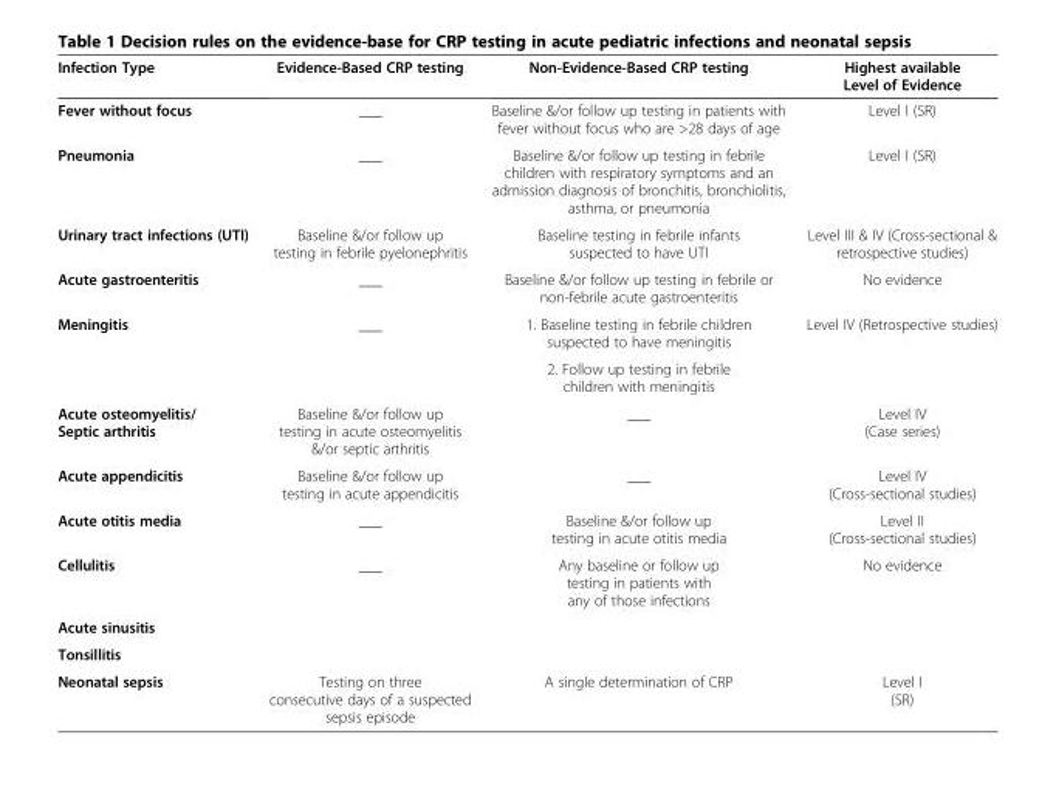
<table><thead><tr><td>Infection Type</td><td>Evidence-Based CRP testing</td><td>Non-Evidence-Based CRP testing</td><td>Highest available Level of Evidence</td></tr></thead><tbody><tr><td>Fever without focus</td><td>___</td><td>Baseline &amp;/or follow up testing in patients with fever without focus who are &gt;28 days of age</td><td>Level I (SR)</td></tr><tr><td>Pneumonia</td><td>___</td><td>Baseline &amp;/or follow up testing in febrile children with respiratory symptoms and an admission diagnosis of bronchitis, bronchiolitis, asthma, or pneumonia</td><td>Level I (SR)</td></tr><tr><td>Urinary tract infections (UTI)</td><td>Baseline &amp;/or follow up testing in febrile pyelonephritis</td><td>Baseline testing in febrile infants suspected to have UTI</td><td>Level III &amp; IV (Cross-sectional &amp; retrospective studies)</td></tr><tr><td>Acute gastroenteritis</td><td>___</td><td>Baseline &amp;/or follow up testing in febrile or non-febrile acute gastroenteritis</td><td>No evidence</td></tr><tr><td rowspan="2">Meningitis</td><td>___</td><td>1. Baseline testing in febrile children suspected to have meningitis</td><td>Level IV (Retrospective studies)</td></tr><tr><td></td><td>2. Follow up testing in febrile children with meningitis</td><td></td></tr><tr><td>Acute osteomyelitis/ Septic arthritis</td><td>Baseline &amp;/or follow up testing in acute osteomyelitis &amp;/or septic arthritis</td><td>___</td><td>Level IV (Case series)</td></tr><tr><td>Acute appendicitis</td><td>Baseline &amp;/or follow up testing in acute appendicitis</td><td>___</td><td>Level IV (Cross-sectional studies)</td></tr><tr><td>Acute otitis media</td><td>___</td><td>Baseline &amp;/or follow up testing in acute otitis media</td><td>Level II (Cross-sectional studies)</td></tr><tr><td>Cellulitis</td><td>___</td><td>Any baseline or follow up testing in patients with any of those infections</td><td>No evidence</td></tr><tr><td colspan="4">Acute sinusitis</td></tr><tr><td colspan="4">Tonsillitis</td></tr><tr><td>Neonatal sepsis</td><td>Testing on three consecutive days of a suspected sepsis episode</td><td>A single determination of CRP</td><td>Level I (SR)</td></tr></tbody></table>